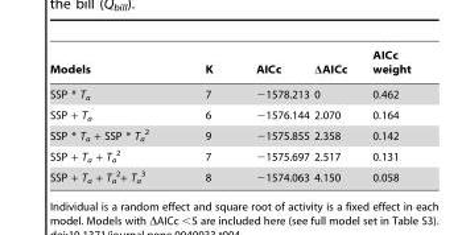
<table><thead><tr><td>Models</td><td>K</td><td>AICc</td><td>ΔAICc</td><td>AICc weight</td></tr></thead><tbody><tr><td>SSP * T<sub>a</sub></td><td>7</td><td>−1578.213</td><td>0</td><td>0.462</td></tr><tr><td>SSP + T<sub>a</sub></td><td>6</td><td>−1576.144</td><td>2.070</td><td>0.164</td></tr><tr><td>SSP * T<sub>a</sub> + SSP * T<sub>a</sub> <sup>2</sup></td><td>9</td><td>−1575.855</td><td>2.358</td><td>0.142</td></tr><tr><td>SSP + T<sub>a</sub> + T<sub>a</sub> <sup>2</sup></td><td>7</td><td>−1575.697</td><td>2.517</td><td>0.131</td></tr><tr><td>SSP + T<sub>a</sub> + T<sub>a</sub> <sup>2</sup>+ T<sub>a</sub> <sup>3</sup></td><td>8</td><td>−1574.063</td><td>4.150</td><td>0.058</td></tr></tbody></table>